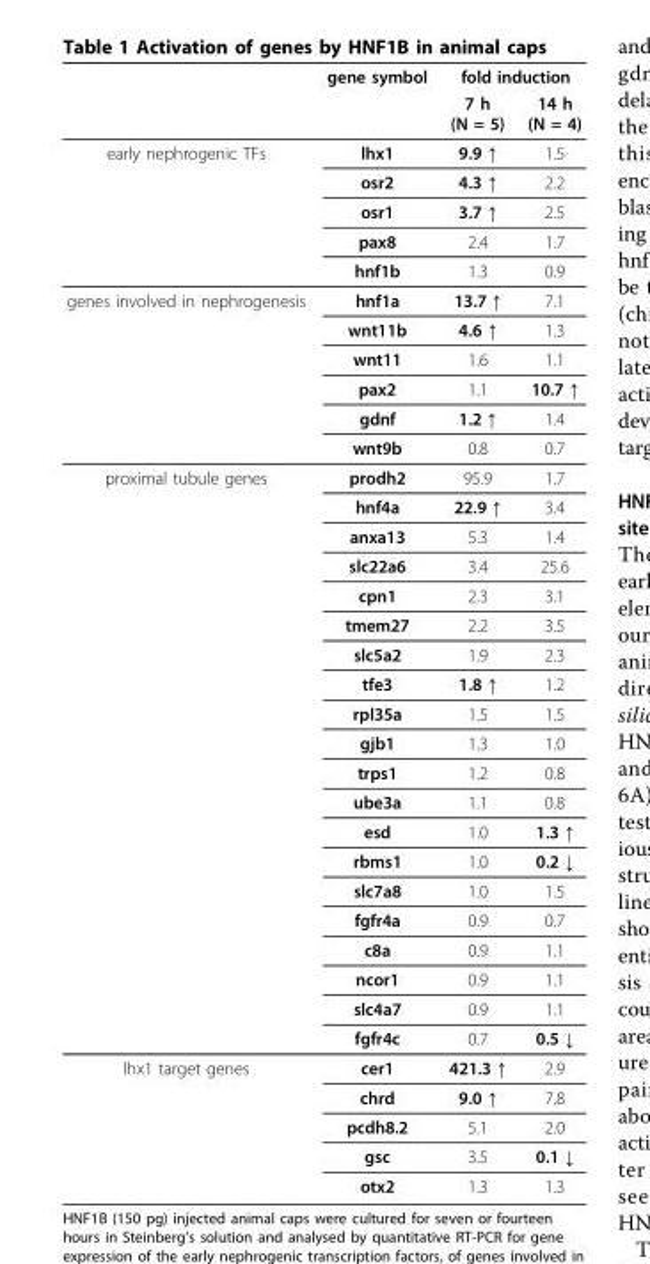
<table><thead><tr><td rowspan="2"></td><td rowspan="2">gene symbol</td><td colspan="2">fold induction</td></tr><tr><td>7 h (N = 5)</td><td>14 h (N = 4)</td></tr></thead><tbody><tr><td rowspan="5">early nephrogenic TFs</td><td>lhx1</td><td>9.9 ↑</td><td>1.5</td></tr><tr><td>osr2</td><td>4.3 ↑</td><td>2.2</td></tr><tr><td>osr1</td><td>3.7 ↑</td><td>2.5</td></tr><tr><td>pax8</td><td>2.4</td><td>1.7</td></tr><tr><td>hnf1b</td><td>1.3</td><td>0.9</td></tr><tr><td rowspan="6">genes involved in nephrogenesis</td><td>hnf1a</td><td>13.7 ↑</td><td>7.1</td></tr><tr><td>wnt11b</td><td>4.6 ↑</td><td>1.3</td></tr><tr><td>wnt11</td><td>1.6</td><td>1.1</td></tr><tr><td>pax2</td><td>1.1</td><td>10.7 ↑</td></tr><tr><td>gdnf</td><td>1.2 ↑</td><td>1.4</td></tr><tr><td>wnt9b</td><td>0.8</td><td>0.7</td></tr><tr><td rowspan="20">proximal tubule genes</td><td>prodh2</td><td>95.9</td><td>1.7</td></tr><tr><td>hnf4a</td><td>22.9 ↑</td><td>3.4</td></tr><tr><td>anxa13</td><td>5.3</td><td>1.4</td></tr><tr><td>slc22a6</td><td>3.4</td><td>25.6</td></tr><tr><td>cpn1</td><td>2.3</td><td>3.1</td></tr><tr><td>tmem27</td><td>2.2</td><td>3.5</td></tr><tr><td>slc5a2</td><td>1.9</td><td>2.3</td></tr><tr><td>tfe3</td><td>1.8 ↑</td><td>1.2</td></tr><tr><td>rpl35a</td><td>1.5</td><td>1.5</td></tr><tr><td>gjb1</td><td>1.3</td><td>1.0</td></tr><tr><td>trps1</td><td>1.2</td><td>0.8</td></tr><tr><td>ube3a</td><td>1.1</td><td>0.8</td></tr><tr><td>esd</td><td>1.0</td><td>1.3 ↑</td></tr><tr><td>rbms1</td><td>1.0</td><td>0.2 ↓</td></tr><tr><td>slc7a8</td><td>1.0</td><td>1.5</td></tr><tr><td>fgfr4a</td><td>0.9</td><td>0.7</td></tr><tr><td>c8a</td><td>0.9</td><td>1.1</td></tr><tr><td>ncor1</td><td>0.9</td><td>1.1</td></tr><tr><td>slc4a7</td><td>0.9</td><td>1.1</td></tr><tr><td>fgfr4c</td><td>0.7</td><td>0.5 ↓</td></tr><tr><td rowspan="5">lhx1 target genes</td><td>cer1</td><td>421.3 ↑</td><td>2.9</td></tr><tr><td>chrd</td><td>9.0 ↑</td><td>7.8</td></tr><tr><td>pcdh8.2</td><td>5.1</td><td>2.0</td></tr><tr><td>gsc</td><td>3.5</td><td>0.1 ↓</td></tr><tr><td>otx2</td><td>1.3</td><td>1.3</td></tr></tbody></table>